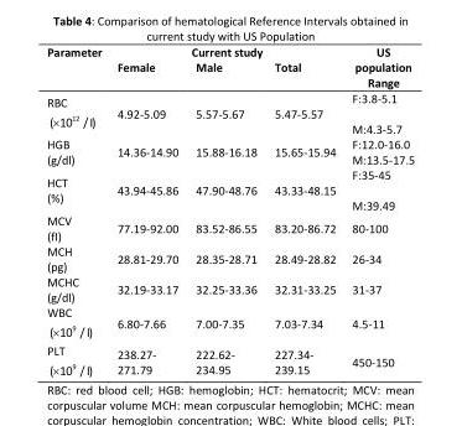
<table><thead><tr><td rowspan="2">Parameter</td><td colspan="3">Current study</td><td rowspan="2">US population Range</td></tr><tr><td>Female</td><td>Male</td><td>Total</td></tr></thead><tbody><tr><td>RBC 12 ( 10 /I) </td><td>4.92-5.09</td><td>5.57-5.67</td><td>5.47-5.57</td><td>F:3.8-5.1 M:4.3-5.7</td></tr><tr><td>HGB (g/dl)</td><td>14.36-14.90</td><td>15.88-16.18</td><td>15.65-15.94</td><td>F:12.0-16.0 M:13.5-17.5</td></tr><tr><td>HCT (%)</td><td>43.94-45.86</td><td>47.90-48.76</td><td>43.33-48.15</td><td>F:35-45 M:39.49</td></tr><tr><td>MCV (fI)</td><td>77.19-92.00</td><td>83.52-86.55</td><td>83.20-86.72</td><td>80-100</td></tr><tr><td>MCH (pg)</td><td>28.81-29.70</td><td>28.35-28.71</td><td>28.49-28.82</td><td>26-34</td></tr><tr><td>MCHC (g/dl)</td><td>32.19-33.17</td><td>32.25-33.36</td><td>32.31-33.25</td><td>31-37</td></tr><tr><td>WBC 9 ( 10 /I) </td><td>6.80-7.66</td><td>7.00-7.35</td><td>7.03-7.34</td><td>4.5-11</td></tr><tr><td>PLT 9 ( 10 /I) </td><td>238.27- 271.79</td><td>222.62- 234.95</td><td>227.34- 239.15</td><td>450-150</td></tr></tbody></table>